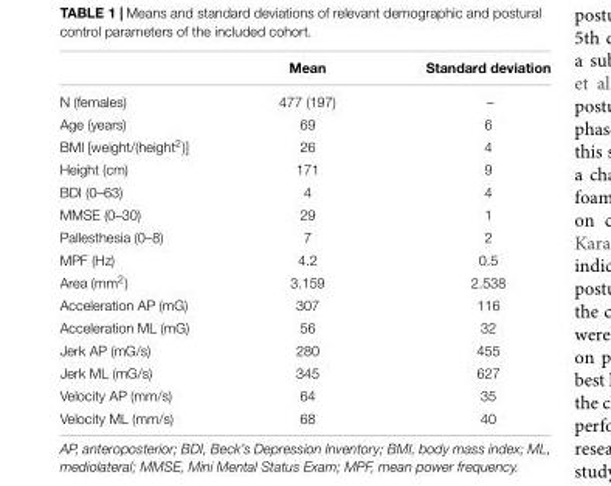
<table><thead><tr><td></td><td>Mean</td><td>Standard deviation</td></tr></thead><tbody><tr><td>N (females)</td><td>477 (197)</td><td>–</td></tr><tr><td>Age (years)</td><td>69</td><td>6</td></tr><tr><td>BMI [weight/(height<sup>2</sup>)]</td><td>26</td><td>4</td></tr><tr><td>Height (cm)</td><td>171</td><td>9</td></tr><tr><td>BDI (0–63)</td><td>4</td><td>4</td></tr><tr><td>MMSE (0–30)</td><td>29</td><td>1</td></tr><tr><td>Pallesthesia (0–8)</td><td>7</td><td>2</td></tr><tr><td>MPF (Hz)</td><td>4.2</td><td>0.5</td></tr><tr><td>Area (mm<sup>2</sup>)</td><td>3.159</td><td>2.538</td></tr><tr><td>Acceleration AP (mG)</td><td>307</td><td>116</td></tr><tr><td>Acceleration ML (mG)</td><td>56</td><td>32</td></tr><tr><td>Jerk AP (mG/s)</td><td>280</td><td>455</td></tr><tr><td>Jerk ML (mG/s)</td><td>345</td><td>627</td></tr><tr><td>Velocity AP (mm/s)</td><td>64</td><td>35</td></tr><tr><td>Velocity ML (mm/s)</td><td>68</td><td>40</td></tr></tbody></table>